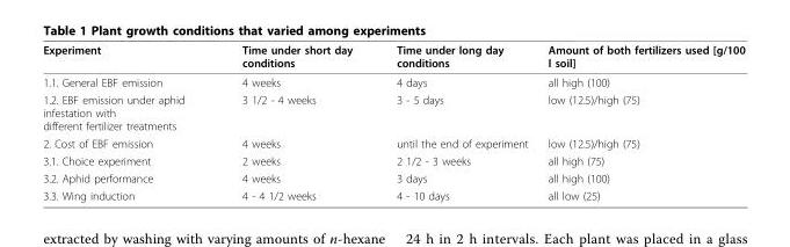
<table><thead><tr><td>Experiment</td><td>Time under short day conditions</td><td>Time under long day conditions</td><td>Amount of both fertilizers used [g/100 l soil]</td></tr></thead><tbody><tr><td>1.1. General EBF emission</td><td>4 weeks</td><td>4 days</td><td>all high (100)</td></tr><tr><td>1.2. EBF emission under aphid infestation with different fertilizer treatments</td><td>3 1/2 - 4 weeks</td><td>3 - 5 days</td><td>low (12.5)/high (75)</td></tr><tr><td>2. Cost of EBF emission</td><td>4 weeks</td><td>until the end of experiment</td><td>low (12.5)/high (75)</td></tr><tr><td>3.1. Choice experiment</td><td>2 weeks</td><td>2 1/2 - 3 weeks</td><td>all high (75)</td></tr><tr><td>3.2. Aphid performance</td><td>4 weeks</td><td>3 days</td><td>all high (100)</td></tr><tr><td>3.3. Wing induction</td><td>4 - 4 1/2 weeks</td><td>4 - 10 days</td><td>all low (25)</td></tr></tbody></table>